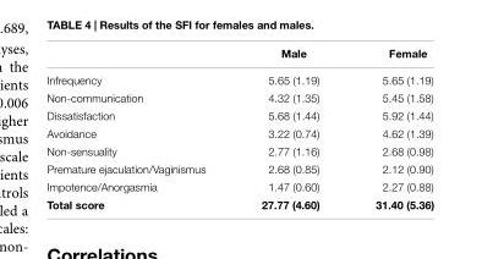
<table><thead><tr><td></td><td>Male</td><td>Female</td></tr></thead><tbody><tr><td>Infrequency</td><td>5.65 (1.19)</td><td>5.65 (1.19)</td></tr><tr><td>Non-communication</td><td>4.32 (1.35)</td><td>5.45 (1.58)</td></tr><tr><td>Dissatisfaction</td><td>5.68 (1.44)</td><td>5.92 (1.44)</td></tr><tr><td>Avoidance</td><td>3.22 (0.74)</td><td>4.62 (1.39)</td></tr><tr><td>Non-sensuality</td><td>2.77 (1.16)</td><td>2.68 (0.98)</td></tr><tr><td>Premature ejaculation/Vaginismus</td><td>2.68 (0.85)</td><td>2.12 (0.90)</td></tr><tr><td>Impotence/Anorgasmia</td><td>1.47 (0.60)</td><td>2.27 (0.88)</td></tr><tr><td>Total score</td><td>27.77 (4.60)</td><td>31.40 (5.36)</td></tr></tbody></table>